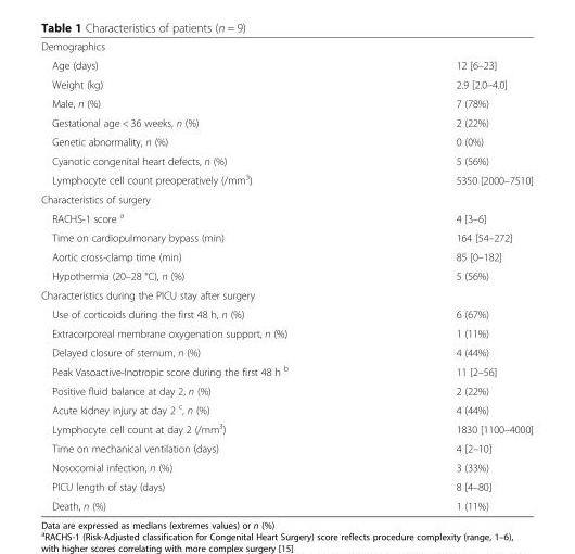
<table><tbody><tr><td colspan="2">Demographics</td></tr><tr><td>Age (days)</td><td>12 [6–23]</td></tr><tr><td>Weight (kg)</td><td>2.9 [2.0–4.0]</td></tr><tr><td>Male, n (%)</td><td>7 (78%)</td></tr><tr><td>Gestational age &lt; 36 weeks, n (%)</td><td>2 (22%)</td></tr><tr><td>Genetic abnormality, n (%)</td><td>0 (0%)</td></tr><tr><td>Cyanotic congenital heart defects, n (%)</td><td>5 (56%)</td></tr><tr><td>Lymphocyte cell count preoperatively (/mm<sup>3</sup>)</td><td>5350 [2000–7510]</td></tr><tr><td colspan="2">Characteristics of surgery</td></tr><tr><td>RACHS-1 score <sup>a</sup></td><td>4 [3–6]</td></tr><tr><td>Time on cardiopulmonary bypass (min)</td><td>164 [54–272]</td></tr><tr><td>Aortic cross-clamp time (min)</td><td>85 [0–182]</td></tr><tr><td>Hypothermia (20–28 °C), n (%)</td><td>5 (56%)</td></tr><tr><td colspan="2">Characteristics during the PICU stay after surgery</td></tr><tr><td>Use of corticoids during the first 48 h, n (%)</td><td>6 (67%)</td></tr><tr><td>Extracorporeal membrane oxygenation support, n (%)</td><td>1 (11%)</td></tr><tr><td>Delayed closure of sternum, n (%)</td><td>4 (44%)</td></tr><tr><td>Peak Vasoactive-Inotropic score during the first 48 h <sup>b</sup></td><td>11 [2–56]</td></tr><tr><td>Positive fluid balance at day 2, n (%)</td><td>2 (22%)</td></tr><tr><td>Acute kidney injury at day 2 <sup>c</sup>, n (%)</td><td>4 (44%)</td></tr><tr><td>Lymphocyte cell count at day 2 (/mm<sup>3</sup>)</td><td>1830 [1100–4000]</td></tr><tr><td>Time on mechanical ventilation (days)</td><td>4 [2–10]</td></tr><tr><td>Nosocomial infection, n (%)</td><td>3 (33%)</td></tr><tr><td>PICU length of stay (days)</td><td>8 [4–80]</td></tr><tr><td>Death, n (%)</td><td>1 (11%)</td></tr></tbody></table>